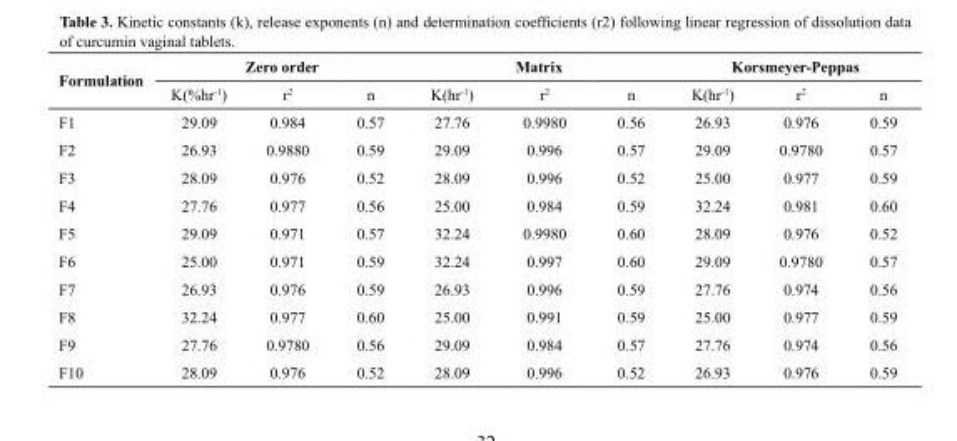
<table><thead><tr><td rowspan="2">Formulation</td><td colspan="3">Zero order</td><td colspan="3">Matrix</td><td colspan="3">Korsmeyer-Peppas</td></tr><tr><td>K(%hr<sup>-1</sup>)</td><td>r<sup>2</sup></td><td>n</td><td>K(hr<sup>-1</sup>)</td><td>r<sup>2</sup></td><td>n</td><td>K(hr<sup>-1</sup>)</td><td>r<sup>2</sup></td><td>n</td></tr></thead><tbody><tr><td>F1</td><td>29.09</td><td>0.984</td><td>0.57</td><td>27.76</td><td>0.9980</td><td>0.56</td><td>26.93</td><td>0.976</td><td>0.59</td></tr><tr><td>F2</td><td>26.93</td><td>0.9880</td><td>0.59</td><td>29.09</td><td>0.996</td><td>0.57</td><td>29.09</td><td>0.9780</td><td>0.57</td></tr><tr><td>F3</td><td>28.09</td><td>0.976</td><td>0.52</td><td>28.09</td><td>0.996</td><td>0.52</td><td>25.00</td><td>0.977</td><td>0.59</td></tr><tr><td>F4</td><td>27.76</td><td>0.977</td><td>0.56</td><td>25.00</td><td>0.984</td><td>0.59</td><td>32.24</td><td>0.981</td><td>0.60</td></tr><tr><td>F5</td><td>29.09</td><td>0.971</td><td>0.57</td><td>32.24</td><td>0.9980</td><td>0.60</td><td>28.09</td><td>0.976</td><td>0.52</td></tr><tr><td>F6</td><td>25.00</td><td>0.971</td><td>0.59</td><td>32.24</td><td>0.997</td><td>0.60</td><td>29.09</td><td>0.9780</td><td>0.57</td></tr><tr><td>F7</td><td>26.93</td><td>0.976</td><td>0.59</td><td>26.93</td><td>0.996</td><td>0.59</td><td>27.76</td><td>0.974</td><td>0.56</td></tr><tr><td>F8</td><td>32.24</td><td>0.977</td><td>0.60</td><td>25.00</td><td>0.991</td><td>0.59</td><td>25.00</td><td>0.977</td><td>0.59</td></tr><tr><td>F9</td><td>27.76</td><td>0.9780</td><td>0.56</td><td>29.09</td><td>0.984</td><td>0.57</td><td>27.76</td><td>0.974</td><td>0.56</td></tr><tr><td>F10</td><td>28.09</td><td>0.976</td><td>0.52</td><td>28.09</td><td>0.996</td><td>0.52</td><td>26.93</td><td>0.976</td><td>0.59</td></tr></tbody></table>